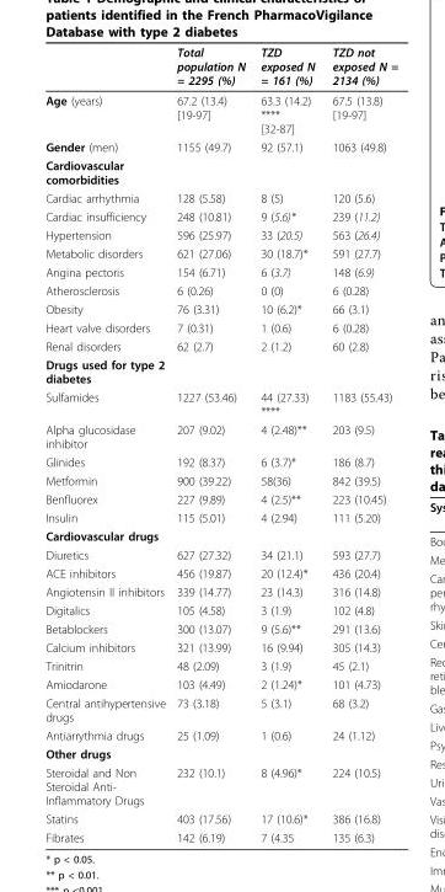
<table><thead><tr><td></td><td>Total population N = 2295 (%)</td><td>TZD exposed N = 161 (%)</td><td>TZD not exposed N = 2134 (%)</td></tr></thead><tbody><tr><td>Age (years)</td><td>67.2 (13.4) [19-97]</td><td>63.3 (14.2) **** [32-87]</td><td>67.5 (13.8) [19-97]</td></tr><tr><td>Gender (men)</td><td>1155 (49.7)</td><td>92 (57.1)</td><td>1063 (49.8)</td></tr><tr><td colspan="4">Cardiovascular comorbidities</td></tr><tr><td>Cardiac arrhythmia</td><td>128 (5.58)</td><td>8 (5)</td><td>120 (5.6)</td></tr><tr><td>Cardiac insufficiency</td><td>248 (10.81)</td><td>9 (5.6)*</td><td>239 (11.2)</td></tr><tr><td>Hypertension</td><td>596 (25.97)</td><td>33 (20.5)</td><td>563 (26.4)</td></tr><tr><td>Metabolic disorders</td><td>621 (27.06)</td><td>30 (18.7)*</td><td>591 (27.7)</td></tr><tr><td>Angina pectoris</td><td>154 (6.71)</td><td>6 (3.7)</td><td>148 (6.9)</td></tr><tr><td>Atherosclerosis</td><td>6 (0.26)</td><td>0 (0)</td><td>6 (0.28)</td></tr><tr><td>Obesity</td><td>76 (3.31)</td><td>10 (6.2)*</td><td>66 (3.1)</td></tr><tr><td>Heart valve disorders</td><td>7 (0.31)</td><td>1 (0.6)</td><td>6 (0.28)</td></tr><tr><td>Renal disorders</td><td>62 (2.7)</td><td>2 (1.2)</td><td>60 (2.8)</td></tr><tr><td colspan="4">Drugs used for type 2 diabetes</td></tr><tr><td>Sulfamides</td><td>1227 (53.46)</td><td>44 (27.33) ****</td><td>1183 (55.43)</td></tr><tr><td>Alpha glucosidase inhibitor</td><td>207 (9.02)</td><td>4 (2.48)**</td><td>203 (9.5)</td></tr><tr><td>Glinides</td><td>192 (8.37)</td><td>6 (3.7)*</td><td>186 (8.7)</td></tr><tr><td>Metformin</td><td>900 (39.22)</td><td>58(36)</td><td>842 (39.5)</td></tr><tr><td>Benfluorex</td><td>227 (9.89)</td><td>4 (2.5)**</td><td>223 (10.45)</td></tr><tr><td>Insulin</td><td>115 (5.01)</td><td>4 (2.94)</td><td>111 (5.20)</td></tr><tr><td colspan="4">Cardiovascular drugs</td></tr><tr><td>Diuretics</td><td>627 (27.32)</td><td>34 (21.1)</td><td>593 (27.7)</td></tr><tr><td>ACE inhibitors</td><td>456 (19.87)</td><td>20 (12.4)*</td><td>436 (20.4)</td></tr><tr><td>Angiotensin II inhibitors</td><td>339 (14.77)</td><td>23 (14.3)</td><td>316 (14.8)</td></tr><tr><td>Digitalics</td><td>105 (4.58)</td><td>3 (1.9)</td><td>102 (4.8)</td></tr><tr><td>Betablockers</td><td>300 (13.07)</td><td>9 (5.6)**</td><td>291 (13.6)</td></tr><tr><td>Calcium inhibitors</td><td>321 (13.99)</td><td>16 (9.94)</td><td>305 (14.3)</td></tr><tr><td>Trinitrin</td><td>48 (2.09)</td><td>3 (1.9)</td><td>45 (2.1)</td></tr><tr><td>Amiodarone</td><td>103 (4.49)</td><td>2 (1.24)*</td><td>101 (4.73)</td></tr><tr><td>Central antihypertensive drugs</td><td>73 (3.18)</td><td>5 (3.1)</td><td>68 (3.2)</td></tr><tr><td>Antiarrythmia drugs</td><td>25 (1.09)</td><td>1 (0.6)</td><td>24 (1.12)</td></tr><tr><td colspan="4">Other drugs</td></tr><tr><td>Steroidal and Non Steroidal Anti- Inflammatory Drugs</td><td>232 (10.1)</td><td>8 (4.96)*</td><td>224 (10.5)</td></tr><tr><td>Statins</td><td>403 (17.56)</td><td>17 (10.6)*</td><td>386 (16.8)</td></tr><tr><td>Fibrates</td><td>142 (6.19)</td><td>7 (4.35</td><td>135 (6.3)</td></tr></tbody></table>